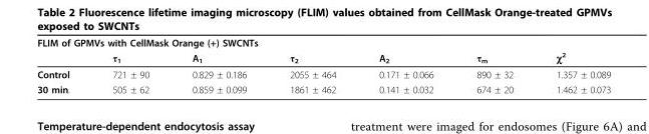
<table><thead><tr><td colspan="7">FLIM of GPMVs with CellMask Orange (+) SWCNTs</td></tr><tr><td></td><td>τ<sub>1</sub></td><td>A<sub>1</sub></td><td>τ<sub>2</sub></td><td>A<sub>2</sub></td><td>τ<sub>m</sub></td><td>χ<sup>2</sup></td></tr></thead><tbody><tr><td>Control</td><td>721 ± 90</td><td>0.829 ± 0.186</td><td>2055 ± 464</td><td>0.171 ± 0.066</td><td>890 ± 32</td><td>1.357 ± 0.089</td></tr><tr><td>30 min.</td><td>505 ± 62</td><td>0.859 ± 0.099</td><td>1861 ± 462</td><td>0.141 ± 0.032</td><td>674 ± 20</td><td>1.462 ± 0.073</td></tr></tbody></table>